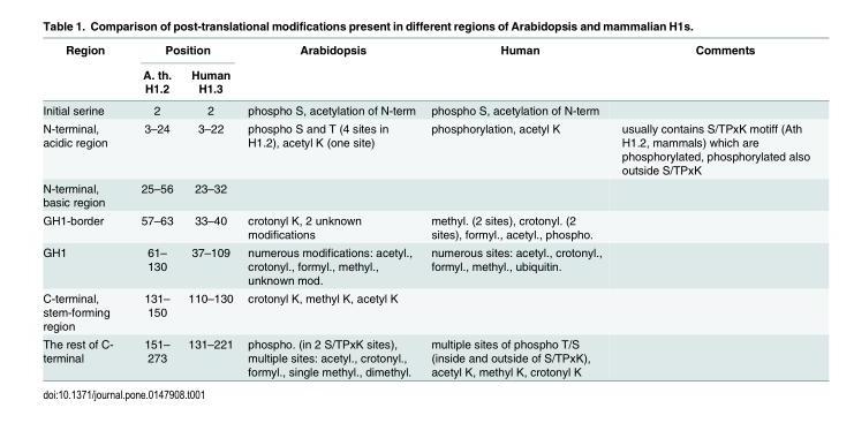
<table><thead><tr><td rowspan="2">Region</td><td colspan="2">Position</td><td rowspan="2">Arabidopsis</td><td rowspan="2">Human</td><td rowspan="2">Comments</td></tr><tr><td>A. th. H1.2</td><td>Human H1.3</td></tr></thead><tbody><tr><td>Initial serine</td><td>2</td><td>2</td><td>phospho S, acetylation of N-term</td><td>phospho S, acetylation of N-term</td><td></td></tr><tr><td>N-terminal, acidic region</td><td>3–24</td><td>3–22</td><td>phospho S and T (4 sites in H1.2), acetyl K (one site)</td><td>phosphorylation, acetyl K</td><td>usually contains S/TPxK motiff (Ath H1.2, mammals) which are phosphorylated, phosphorylated also outside S/TPxK</td></tr><tr><td>N-terminal, basic region</td><td>25–56</td><td>23–32</td><td></td><td></td><td></td></tr><tr><td>GH1-border</td><td>57–63</td><td>33–40</td><td>crotonyl K, 2 unknown modifications</td><td>methyl. (2 sites), crotonyl. (2 sites), formyl., acetyl., phospho.</td><td></td></tr><tr><td>GH1</td><td>61– 130</td><td>37–109</td><td>numerous modifications: acetyl., crotonyl., formyl., methyl., unknown mod.</td><td>numerous sites: acetyl., crotonyl., formyl., methyl., ubiquitin.</td><td></td></tr><tr><td>C-terminal, stem-forming region</td><td>131– 150</td><td>110–130</td><td>crotonyl K, methyl K, acetyl K</td><td></td><td></td></tr><tr><td>The rest of C- terminal</td><td>151– 273</td><td>131–221</td><td>phospho. (in 2 S/TPxK sites), multiple sites: acetyl., crotonyl., formyl., single methyl., dimethyl.</td><td>multiple sites of phospho T/S (inside and outside of S/TPxK), acetyl K, methyl K, crotonyl K</td><td></td></tr></tbody></table>